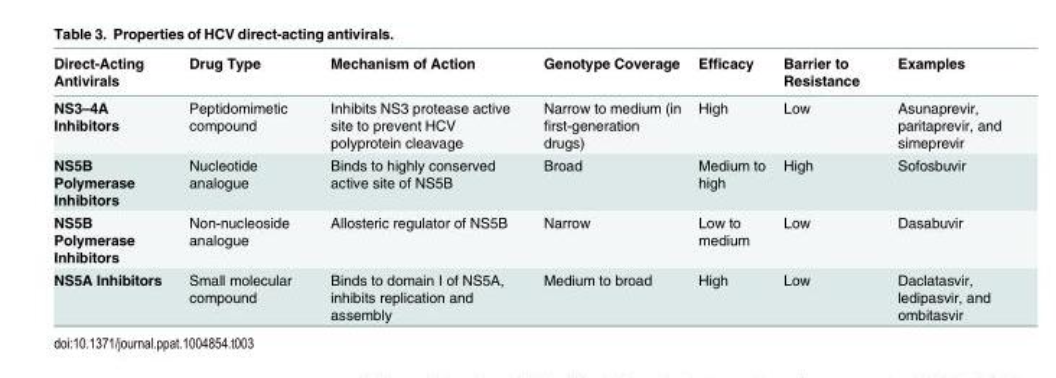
<table><thead><tr><td>Direct-Acting Antivirals</td><td>Drug Type</td><td>Mechanism of Action</td><td>Genotype Coverage</td><td>Efficacy</td><td>Barrier to Resistance</td><td>Examples</td></tr></thead><tbody><tr><td>NS3–4A Inhibitors</td><td>Peptidomimetic compound</td><td>Inhibits NS3 protease active site to prevent HCV polyprotein cleavage</td><td>Narrow to medium (in first-generation drugs)</td><td>High</td><td>Low</td><td>Asunaprevir, paritaprevir, and simeprevir</td></tr><tr><td>NS5B Polymerase Inhibitors</td><td>Nucleotide analogue</td><td>Binds to highly conserved active site of NS5B</td><td>Broad</td><td>Medium to high</td><td>High</td><td>Sofosbuvir</td></tr><tr><td>NS5B Polymerase Inhibitors</td><td>Non-nucleoside analogue</td><td>Allosteric regulator of NS5B</td><td>Narrow</td><td>Low to medium</td><td>Low</td><td>Dasabuvir</td></tr><tr><td>NS5A Inhibitors</td><td>Small molecular compound</td><td>Binds to domain I of NS5A, inhibits replication and assembly</td><td>Medium to broad</td><td>High</td><td>Low</td><td>Daclatasvir, ledipasvir, and ombitasvir</td></tr></tbody></table>